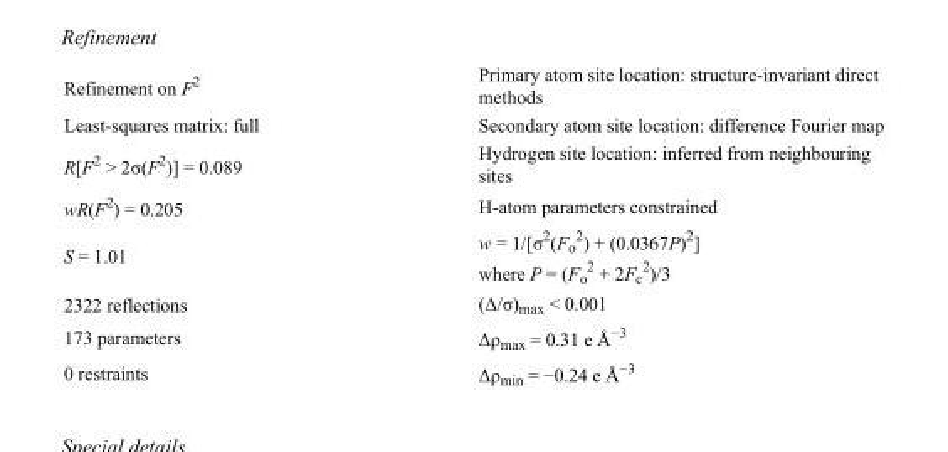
<table><tbody><tr><td>Refinement on F<sup>2</sup></td><td>Primary atom site location: structure-invariant direct methods</td></tr><tr><td>Least-squares matrix: full</td><td>Secondary atom site location: difference Fourier map</td></tr><tr><td>R[F<sup>2</sup> &gt; 2σ(F<sup>2</sup>)] = 0.089</td><td>Hydrogen site location: inferred from neighbouring sites</td></tr><tr><td>wR(F<sup>2</sup>) = 0.205</td><td>H-atom parameters constrained</td></tr><tr><td>S = 1.01</td><td>w = 1/[σ<sup>2</sup>(F<sub>o</sub> <sup>2</sup>) + (0.0367P)<sup>2</sup>] where P = (F<sub>o</sub> <sup>2</sup> + 2F<sub>c</sub> <sup>2</sup>)/3</td></tr><tr><td>2322 reflections</td><td>(Δ/σ)<sub>max</sub> &lt; 0.001</td></tr><tr><td>173 parameters</td><td>Δρ<sub>max</sub> = 0.31 e Å<sup>−3</sup></td></tr><tr><td>0 restraints</td><td>Δρ<sub>min</sub> = −0.24 e Å<sup>−3</sup></td></tr></tbody></table>